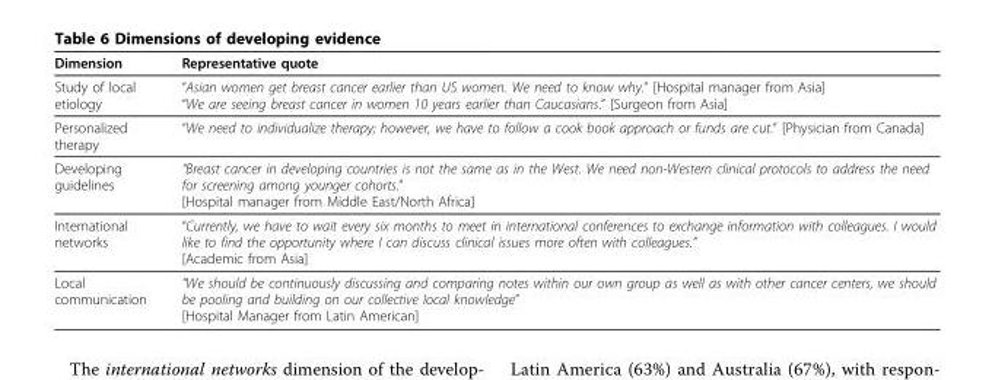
<table><thead><tr><td>Dimension</td><td>Representative quote</td></tr></thead><tbody><tr><td>Study of local etiology</td><td>“Asian women get breast cancer earlier than US women. We need to know why.” [Hospital manager from Asia] “We are seeing breast cancer in women 10 years earlier than Caucasians.” [Surgeon from Asia]</td></tr><tr><td>Personalized therapy</td><td>“We need to individualize therapy; however, we have to follow a cook book approach or funds are cut.” [Physician from Canada]</td></tr><tr><td>Developing guidelines</td><td>“Breast cancer in developing countries is not the same as in the West. We need non-Western clinical protocols to address the need for screening among younger cohorts.” [Hospital manager from Middle East/North Africa]</td></tr><tr><td>International networks</td><td>“Currently, we have to wait every six months to meet in international conferences to exchange information with colleagues. I would like to find the opportunity where I can discuss clinical issues more often with colleagues.” [Academic from Asia]</td></tr><tr><td>Local communication</td><td>“We should be continuously discussing and comparing notes within our own group as well as with other cancer centers, we should be pooling and building on our collective local knowledge” [Hospital Manager from Latin American]</td></tr></tbody></table>